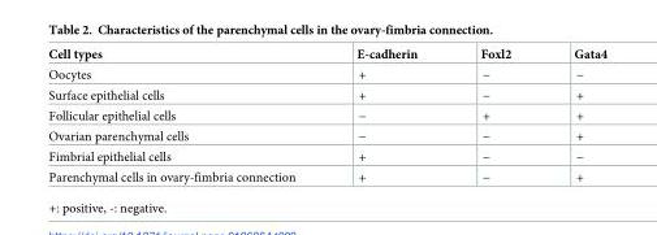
<table><thead><tr><td>Cell types</td><td>E-cadherin</td><td>Foxl2</td><td>Gata4</td></tr></thead><tbody><tr><td>Oocytes</td><td>+</td><td>−</td><td>−</td></tr><tr><td>Surface epithelial cells</td><td>+</td><td>−</td><td>+</td></tr><tr><td>Follicular epithelial cells</td><td>−</td><td>+</td><td>+</td></tr><tr><td>Ovarian parenchymal cells</td><td>−</td><td>−</td><td>+</td></tr><tr><td>Fimbrial epithelial cells</td><td>+</td><td>−</td><td>−</td></tr><tr><td>Parenchymal cells in ovary-fimbria connection</td><td>+</td><td>−</td><td>+</td></tr></tbody></table>